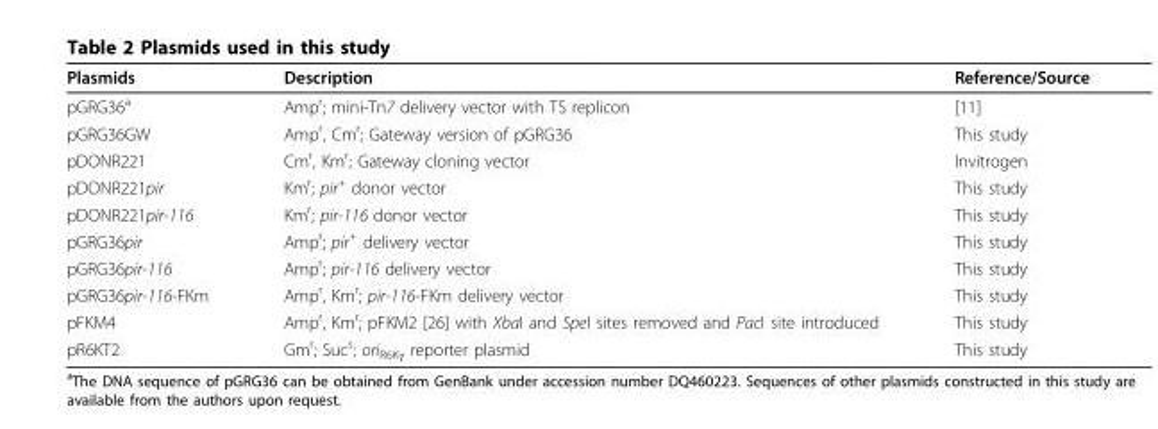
<table><thead><tr><td>Plasmids</td><td>Description</td><td>Reference/Source</td></tr></thead><tbody><tr><td>pGRG36<sup>a</sup></td><td>Amp<sup>r</sup>; mini-Tn7 delivery vector with TS replicon</td><td>[11]</td></tr><tr><td>pGRG36GW</td><td>Amp<sup>r</sup>, Cm<sup>r</sup>; Gateway version of pGRG36</td><td>This study</td></tr><tr><td>pDONR221</td><td>Cm<sup>r</sup>, Km<sup>r</sup>; Gateway cloning vector</td><td>Invitrogen</td></tr><tr><td>pDONR221pir</td><td>Km<sup>r</sup>; pir<sup>+</sup> donor vector</td><td>This study</td></tr><tr><td>pDONR221pir-116</td><td>Km<sup>r</sup>; pir-116 donor vector</td><td>This study</td></tr><tr><td>pGRG36pir</td><td>Amp<sup>r</sup>; pir<sup>+</sup> delivery vector</td><td>This study</td></tr><tr><td>pGRG36pir-116</td><td>Amp<sup>r</sup>; pir-116 delivery vector</td><td>This study</td></tr><tr><td>pGRG36pir-116-FKm</td><td>Amp<sup>r</sup>, Km<sup>r</sup>; pir-116-FKm delivery vector</td><td>This study</td></tr><tr><td>pFKM4</td><td>Amp<sup>r</sup>, Km<sup>r</sup>; pFKM2 [26] with XbaI and SpeI sites removed and PacI site introduced</td><td>This study</td></tr><tr><td>pR6KT2</td><td>Gm<sup>r</sup>; Suc<sup>s</sup>; ori<sub>R6Kγ</sub> reporter plasmid</td><td>This study</td></tr></tbody></table>